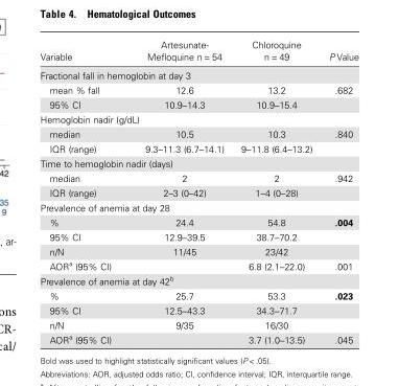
<table><thead><tr><td>Variable</td><td>Artesunate- Mefloquine n = 54</td><td>Chloroquine n = 49</td><td>P Value</td></tr></thead><tbody><tr><td colspan="4">Fractional fall in hemoglobin at day 3</td></tr><tr><td>mean % fall</td><td>12.6</td><td>13.2</td><td>.682</td></tr><tr><td>95% CI</td><td>10.9–14.3</td><td>10.9–15.4</td><td></td></tr><tr><td colspan="4">Hemoglobin nadir (g/dL)</td></tr><tr><td>median</td><td>10.5</td><td>10.3</td><td>.840</td></tr><tr><td>IQR (range)</td><td>9.3–11.3 (6.7–14.1)</td><td>9–11.8 (6.4–13.2)</td><td></td></tr><tr><td colspan="4">Time to hemoglobin nadir (days)</td></tr><tr><td>median</td><td>2</td><td>2</td><td>.942</td></tr><tr><td>IQR (range)</td><td>2–3 (0–42)</td><td>1–4 (0–28)</td><td></td></tr><tr><td colspan="4">Prevalence of anemia at day 28</td></tr><tr><td>%</td><td>24.4</td><td>54.8</td><td>.004</td></tr><tr><td>95% CI</td><td>12.9–39.5</td><td>38.7–70.2</td><td></td></tr><tr><td>n/N</td><td>11/45</td><td>23/42</td><td></td></tr><tr><td>AOR<sup>a</sup> (95% CI)</td><td></td><td>6.8 (2.1–22.0)</td><td>.001</td></tr><tr><td colspan="4">Prevalence of anemia at day 42<sup>b</sup></td></tr><tr><td>%</td><td>25.7</td><td>53.3</td><td>.023</td></tr><tr><td>95% CI</td><td>12.5–43.3</td><td>34.3–71.7</td><td></td></tr><tr><td>n/N</td><td>9/35</td><td>16/30</td><td></td></tr><tr><td>AOR<sup>a</sup> (95% CI)</td><td></td><td>3.7 (1.0–13.5)</td><td>.045</td></tr></tbody></table>